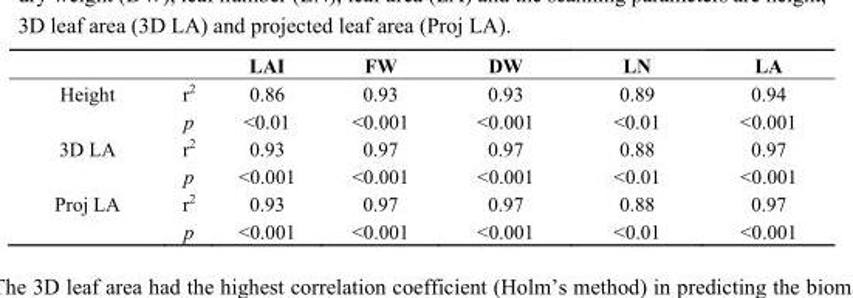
<table><thead><tr><td></td><td></td><td>LAI</td><td>FW</td><td>DW</td><td>LN</td><td>LA</td></tr></thead><tbody><tr><td rowspan="2">Height</td><td>r<sup>2</sup></td><td>0.86</td><td>0.93</td><td>0.93</td><td>0.89</td><td>0.94</td></tr><tr><td>p</td><td>&lt;0.01</td><td>&lt;0.001</td><td>&lt;0.001</td><td>&lt;0.01</td><td>&lt;0.001</td></tr><tr><td rowspan="2">3D LA</td><td>r<sup>2</sup></td><td>0.93</td><td>0.97</td><td>0.97</td><td>0.88</td><td>0.97</td></tr><tr><td>p</td><td>&lt;0.001</td><td>&lt;0.001</td><td>&lt;0.001</td><td>&lt;0.01</td><td>&lt;0.001</td></tr><tr><td rowspan="2">Proj LA</td><td>r<sup>2</sup></td><td>0.93</td><td>0.97</td><td>0.97</td><td>0.88</td><td>0.97</td></tr><tr><td>p</td><td>&lt;0.001</td><td>&lt;0.001</td><td>&lt;0.001</td><td>&lt;0.01</td><td>&lt;0.001</td></tr></tbody></table>